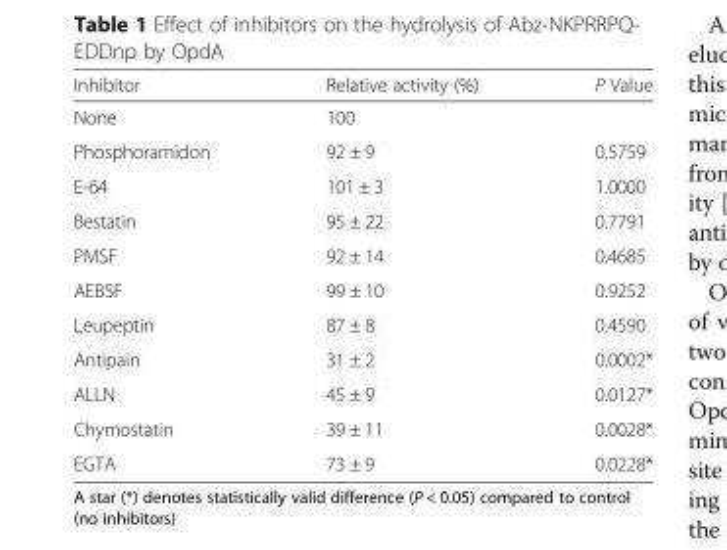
<table><thead><tr><td>Inhibitor</td><td>Relative activity (%)</td><td>P Value</td></tr></thead><tbody><tr><td>None</td><td>100</td><td></td></tr><tr><td>Phosphoramidon</td><td>92 ± 9</td><td>0.5759</td></tr><tr><td>E-64</td><td>101 ± 3</td><td>1.0000</td></tr><tr><td>Bestatin</td><td>95 ± 22</td><td>0.7791</td></tr><tr><td>PMSF</td><td>92 ± 14</td><td>0.4685</td></tr><tr><td>AEBSF</td><td>99 ± 10</td><td>0.9252</td></tr><tr><td>Leupeptin</td><td>87 ± 8</td><td>0.4590</td></tr><tr><td>Antipain</td><td>31 ± 2</td><td>0.0002*</td></tr><tr><td>ALLN</td><td>45 ± 9</td><td>0.0127*</td></tr><tr><td>Chymostatin</td><td>39 ± 11</td><td>0.0028*</td></tr><tr><td>EGTA</td><td>73 ± 9</td><td>0.0228*</td></tr></tbody></table>